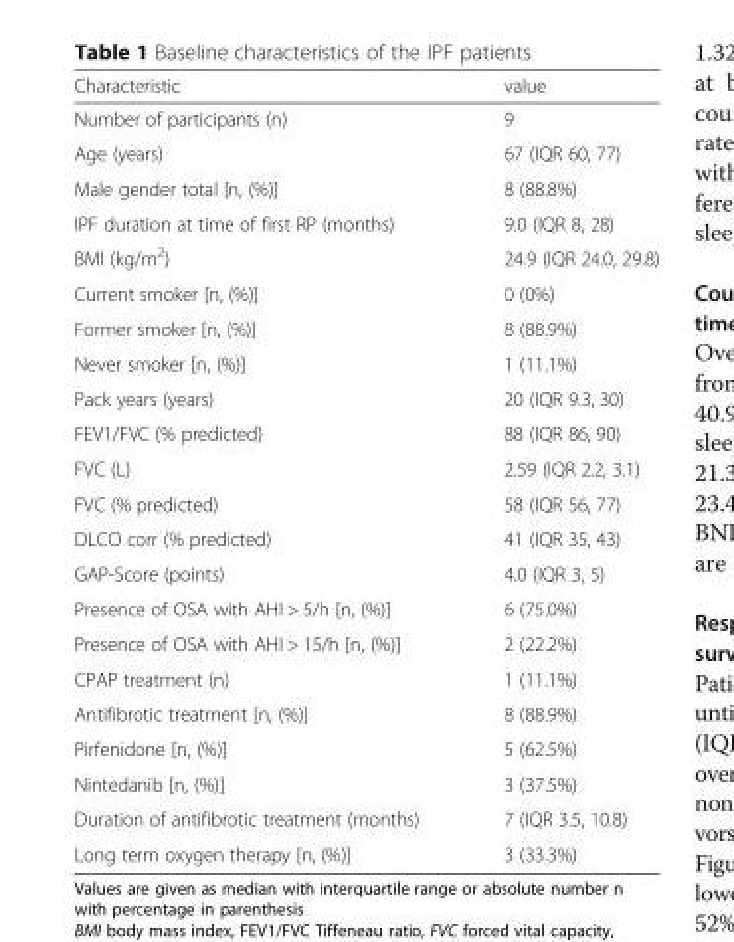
<table><thead><tr><td>Characteristic</td><td>value</td></tr></thead><tbody><tr><td>Number of participants (n)</td><td>9</td></tr><tr><td>Age (years)</td><td>67 (IQR 60, 77)</td></tr><tr><td>Male gender total [n, (%)]</td><td>8 (88.8%)</td></tr><tr><td>IPF duration at time of first RP (months)</td><td>9.0 (IQR 8, 28)</td></tr><tr><td>BMI (kg/m<sup>2</sup>)</td><td>24.9 (IQR 24.0, 29.8)</td></tr><tr><td>Current smoker [n, (%)]</td><td>0 (0%)</td></tr><tr><td>Former smoker [n, (%)]</td><td>8 (88.9%)</td></tr><tr><td>Never smoker [n, (%)]</td><td>1 (11.1%)</td></tr><tr><td>Pack years (years)</td><td>20 (IQR 9.3, 30)</td></tr><tr><td>FEV1/FVC (% predicted)</td><td>88 (IQR 86, 90)</td></tr><tr><td>FVC (L)</td><td>2.59 (IQR 2.2, 3.1)</td></tr><tr><td>FVC (% predicted)</td><td>58 (IQR 56, 77)</td></tr><tr><td>DLCO corr (% predicted)</td><td>41 (IQR 35, 43)</td></tr><tr><td>GAP-Score (points)</td><td>4.0 (IQR 3, 5)</td></tr><tr><td>Presence of OSA with AHI &gt; 5/h [n, (%)]</td><td>6 (75.0%)</td></tr><tr><td>Presence of OSA with AHI &gt; 15/h [n, (%)]</td><td>2 (22.2%)</td></tr><tr><td>CPAP treatment (n)</td><td>1 (11.1%)</td></tr><tr><td>Antifibrotic treatment [n, (%)]</td><td>8 (88.9%)</td></tr><tr><td>Pirfenidone [n, (%)]</td><td>5 (62.5%)</td></tr><tr><td>Nintedanib [n, (%)]</td><td>3 (37.5%)</td></tr><tr><td>Duration of antifibrotic treatment (months)</td><td>7 (IQR 3.5, 10.8)</td></tr><tr><td>Long term oxygen therapy [n, (%)]</td><td>3 (33.3%)</td></tr></tbody></table>